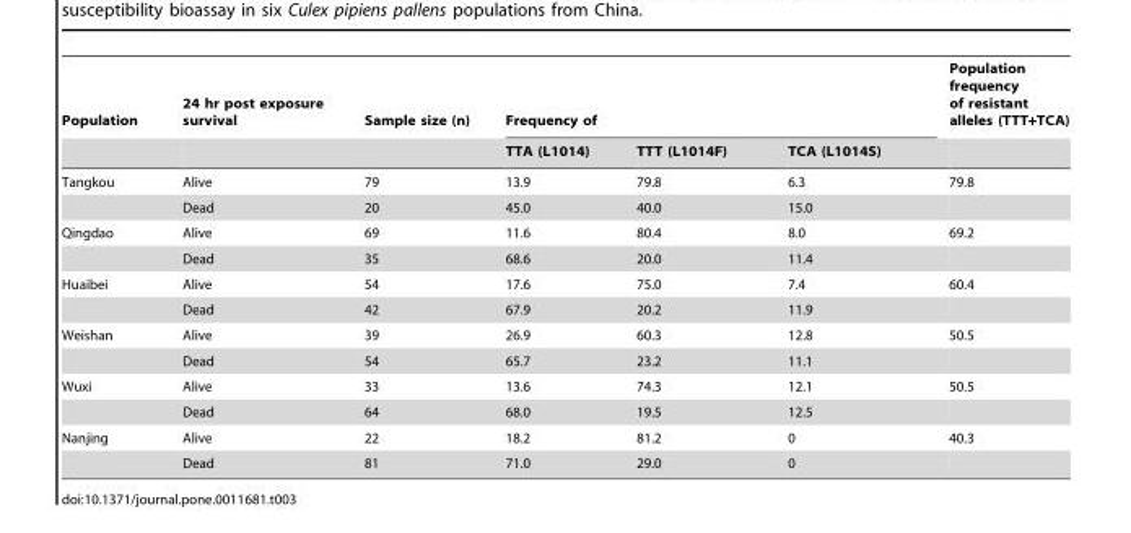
<table><thead><tr><td rowspan="2">Population</td><td rowspan="2">24 hr post exposure survival</td><td rowspan="2">Sample size (n)</td><td colspan="3">Frequency of</td><td rowspan="2">Population frequency of resistant alleles (TTT+TCA)</td></tr><tr><td>TTA (L1014)</td><td>TTT (L1014F)</td><td>TCA (L1014S)</td></tr></thead><tbody><tr><td rowspan="2">Tangkou</td><td>Alive</td><td>79</td><td>13.9</td><td>79.8</td><td>6.3</td><td>79.8</td></tr><tr><td>Dead</td><td>20</td><td>45.0</td><td>40.0</td><td>15.0</td><td></td></tr><tr><td rowspan="2">Qingdao</td><td>Alive</td><td>69</td><td>11.6</td><td>80.4</td><td>8.0</td><td>69.2</td></tr><tr><td>Dead</td><td>35</td><td>68.6</td><td>20.0</td><td>11.4</td><td></td></tr><tr><td rowspan="2">Huaibei</td><td>Alive</td><td>54</td><td>17.6</td><td>75.0</td><td>7.4</td><td>60.4</td></tr><tr><td>Dead</td><td>42</td><td>67.9</td><td>20.2</td><td>11.9</td><td></td></tr><tr><td rowspan="2">Weishan</td><td>Alive</td><td>39</td><td>26.9</td><td>60.3</td><td>12.8</td><td>50.5</td></tr><tr><td>Dead</td><td>54</td><td>65.7</td><td>23.2</td><td>11.1</td><td></td></tr><tr><td rowspan="2">Wuxi</td><td>Alive</td><td>33</td><td>13.6</td><td>74.3</td><td>12.1</td><td>50.5</td></tr><tr><td>Dead</td><td>64</td><td>68.0</td><td>19.5</td><td>12.5</td><td></td></tr><tr><td rowspan="2">Nanjing</td><td>Alive</td><td>22</td><td>18.2</td><td>81.2</td><td>0</td><td>40.3</td></tr><tr><td>Dead</td><td>81</td><td>71.0</td><td>29.0</td><td>0</td><td></td></tr></tbody></table>